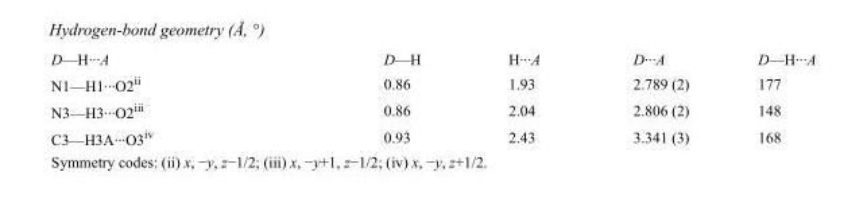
<table><tbody><tr><td>D—H···A</td><td>D—H</td><td>H···A</td><td>D···A</td><td>D—H···A</td></tr><tr><td>N1—H1···O2<sup>ii</sup></td><td>0.86</td><td>1.93</td><td>2.789 (2)</td><td>177</td></tr><tr><td>N3—H3···O2<sup>iii</sup></td><td>0.86</td><td>2.04</td><td>2.806 (2)</td><td>148</td></tr><tr><td>C3—H3A···O3<sup>iv</sup></td><td>0.93</td><td>2.43</td><td>3.341 (3)</td><td>168</td></tr></tbody></table>